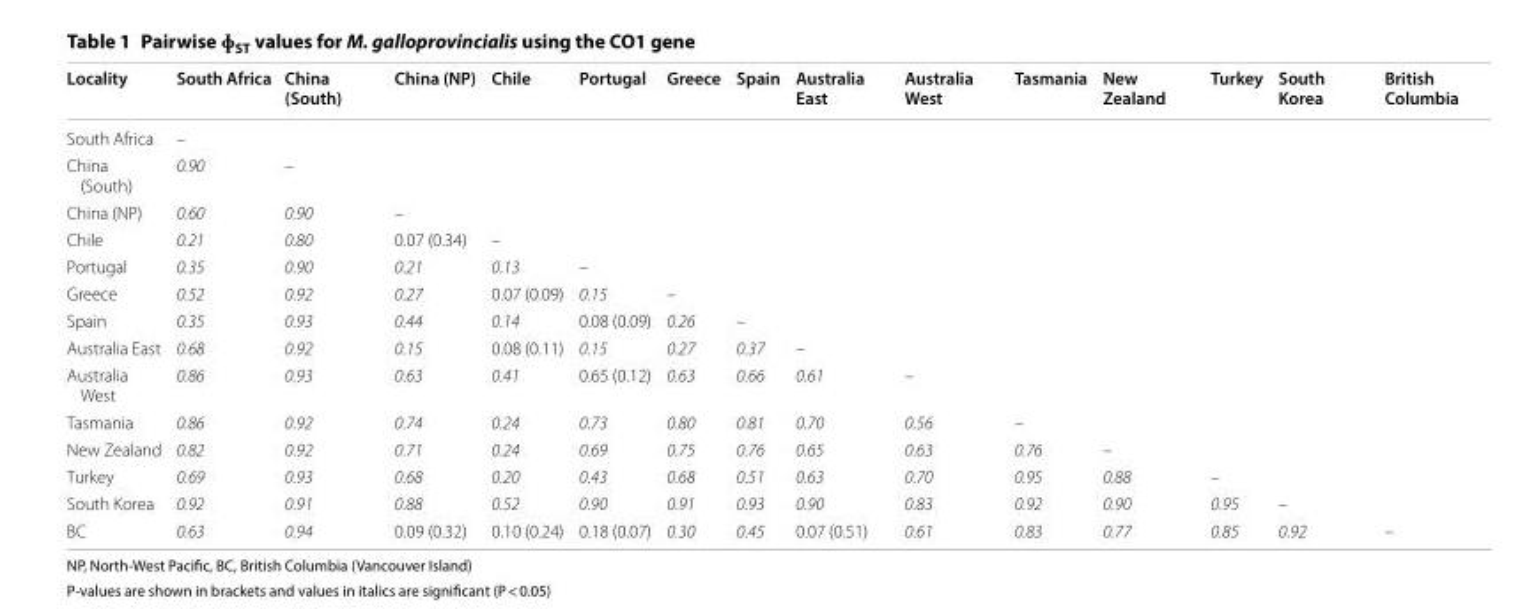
<table><thead><tr><td>Locality</td><td>South Africa</td><td>China (South)</td><td>China (NP)</td><td>Chile</td><td>Portugal</td><td>Greece</td><td>Spain</td><td>Australia East</td><td>Australia West</td><td>Tasmania</td><td>New Zealand</td><td>Turkey</td><td>South Korea</td><td>British Columbia</td></tr></thead><tbody><tr><td>South Africa</td><td>–</td><td></td><td></td><td></td><td></td><td></td><td></td><td></td><td></td><td></td><td></td><td></td><td></td><td></td></tr><tr><td>China (South)</td><td>0.90</td><td>–</td><td></td><td></td><td></td><td></td><td></td><td></td><td></td><td></td><td></td><td></td><td></td><td></td></tr><tr><td>China (NP)</td><td>0.60</td><td>0.90</td><td>–</td><td></td><td></td><td></td><td></td><td></td><td></td><td></td><td></td><td></td><td></td><td></td></tr><tr><td>Chile</td><td>0.21</td><td>0.80</td><td>0.07 (0.34)</td><td>–</td><td></td><td></td><td></td><td></td><td></td><td></td><td></td><td></td><td></td><td></td></tr><tr><td>Portugal</td><td>0.35</td><td>0.90</td><td>0.21</td><td>0.13</td><td>–</td><td></td><td></td><td></td><td></td><td></td><td></td><td></td><td></td><td></td></tr><tr><td>Greece</td><td>0.52</td><td>0.92</td><td>0.27</td><td>0.07 (0.09)</td><td>0.15</td><td>–</td><td></td><td></td><td></td><td></td><td></td><td></td><td></td><td></td></tr><tr><td>Spain</td><td>0.35</td><td>0.93</td><td>0.44</td><td>0.14</td><td>0.08 (0.09)</td><td>0.26</td><td>–</td><td></td><td></td><td></td><td></td><td></td><td></td><td></td></tr><tr><td>Australia East</td><td>0.68</td><td>0.92</td><td>0.15</td><td>0.08 (0.11)</td><td>0.15</td><td>0.27</td><td>0.37</td><td>–</td><td></td><td></td><td></td><td></td><td></td><td></td></tr><tr><td>Australia West</td><td>0.86</td><td>0.93</td><td>0.63</td><td>0.41</td><td>0.65 (0.12)</td><td>0.63</td><td>0.66</td><td>0.61</td><td>–</td><td></td><td></td><td></td><td></td><td></td></tr><tr><td>Tasmania</td><td>0.86</td><td>0.92</td><td>0.74</td><td>0.24</td><td>0.73</td><td>0.80</td><td>0.81</td><td>0.70</td><td>0.56</td><td>–</td><td></td><td></td><td></td><td></td></tr><tr><td>New Zealand</td><td>0.82</td><td>0.92</td><td>0.71</td><td>0.24</td><td>0.69</td><td>0.75</td><td>0.76</td><td>0.65</td><td>0.63</td><td>0.76</td><td>–</td><td></td><td></td><td></td></tr><tr><td>Turkey</td><td>0.69</td><td>0.93</td><td>0.68</td><td>0.20</td><td>0.43</td><td>0.68</td><td>0.51</td><td>0.63</td><td>0.70</td><td>0.95</td><td>0.88</td><td>–</td><td></td><td></td></tr><tr><td>South Korea</td><td>0.92</td><td>0.91</td><td>0.88</td><td>0.52</td><td>0.90</td><td>0.91</td><td>0.93</td><td>0.90</td><td>0.83</td><td>0.92</td><td>0.90</td><td>0.95</td><td>–</td><td></td></tr><tr><td>BC</td><td>0.63</td><td>0.94</td><td>0.09 (0.32)</td><td>0.10 (0.24)</td><td>0.18 (0.07)</td><td>0.30</td><td>0.45</td><td>0.07 (0.51)</td><td>0.61</td><td>0.83</td><td>0.77</td><td>0.85</td><td>0.92</td><td>–</td></tr></tbody></table>